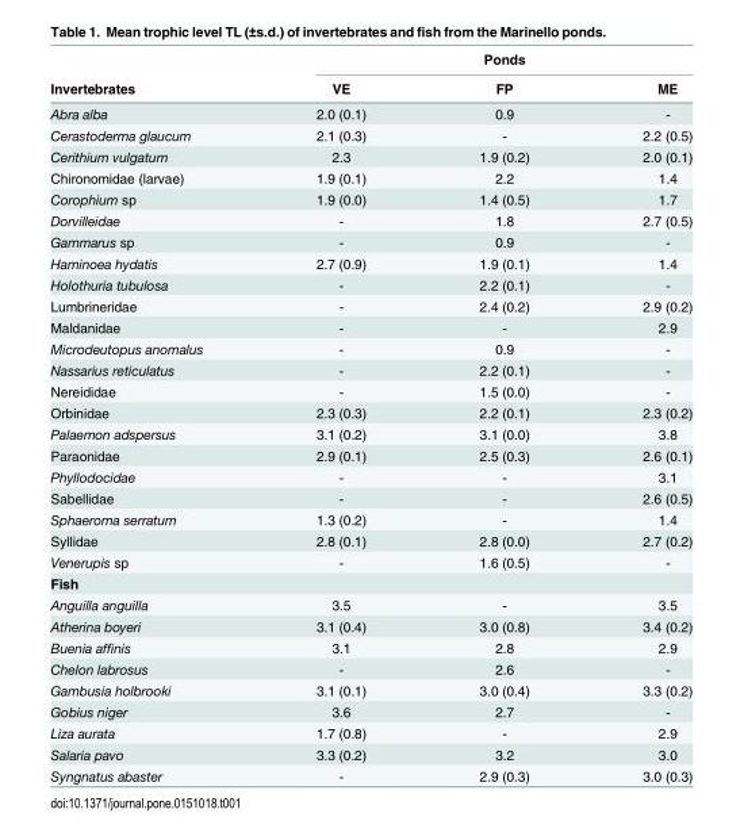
<table><thead><tr><td rowspan="2">Invertebrates</td><td colspan="3">Ponds</td></tr><tr><td>VE</td><td>FP</td><td>ME</td></tr></thead><tbody><tr><td>Abra alba</td><td>2.0 (0.1)</td><td>0.9</td><td>-</td></tr><tr><td>Cerastoderma glaucum</td><td>2.1 (0.3)</td><td>-</td><td>2.2 (0.5)</td></tr><tr><td>Cerithium vulgatum</td><td>2.3</td><td>1.9 (0.2)</td><td>2.0 (0.1)</td></tr><tr><td>Chironomidae (larvae)</td><td>1.9 (0.1)</td><td>2.2</td><td>1.4</td></tr><tr><td>Corophium sp</td><td>1.9 (0.0)</td><td>1.4 (0.5)</td><td>1.7</td></tr><tr><td>Dorvilleidae</td><td>-</td><td>1.8</td><td>2.7 (0.5)</td></tr><tr><td>Gammarus sp</td><td>-</td><td>0.9</td><td>-</td></tr><tr><td>Haminoea hydatis</td><td>2.7 (0.9)</td><td>1.9 (0.1)</td><td>1.4</td></tr><tr><td>Holothuria tubulosa</td><td>-</td><td>2.2 (0.1)</td><td>-</td></tr><tr><td>Lumbrineridae</td><td>-</td><td>2.4 (0.2)</td><td>2.9 (0.2)</td></tr><tr><td>Maldanidae</td><td>-</td><td>-</td><td>2.9</td></tr><tr><td>Microdeutopus anomalus</td><td>-</td><td>0.9</td><td>-</td></tr><tr><td>Nassarius reticulatus</td><td>-</td><td>2.2 (0.1)</td><td>-</td></tr><tr><td>Nereididae</td><td>-</td><td>1.5 (0.0)</td><td>-</td></tr><tr><td>Orbinidae</td><td>2.3 (0.3)</td><td>2.2 (0.1)</td><td>2.3 (0.2)</td></tr><tr><td>Palaemon adspersus</td><td>3.1 (0.2)</td><td>3.1 (0.0)</td><td>3.8</td></tr><tr><td>Paraonidae</td><td>2.9 (0.1)</td><td>2.5 (0.3)</td><td>2.6 (0.1)</td></tr><tr><td>Phyllodocidae</td><td>-</td><td>-</td><td>3.1</td></tr><tr><td>Sabellidae</td><td>-</td><td>-</td><td>2.6 (0.5)</td></tr><tr><td>Sphaeroma serratum</td><td>1.3 (0.2)</td><td>-</td><td>1.4</td></tr><tr><td>Syllidae</td><td>2.8 (0.1)</td><td>2.8 (0.0)</td><td>2.7 (0.2)</td></tr><tr><td>Venerupis sp</td><td>-</td><td>1.6 (0.5)</td><td>-</td></tr><tr><td colspan="4">Fish</td></tr><tr><td>Anguilla anguilla</td><td>3.5</td><td>-</td><td>3.5</td></tr><tr><td>Atherina boyeri</td><td>3.1 (0.4)</td><td>3.0 (0.8)</td><td>3.4 (0.2)</td></tr><tr><td>Buenia affinis</td><td>3.1</td><td>2.8</td><td>2.9</td></tr><tr><td>Chelon labrosus</td><td>-</td><td>2.6</td><td>-</td></tr><tr><td>Gambusia holbrooki</td><td>3.1 (0.1)</td><td>3.0 (0.4)</td><td>3.3 (0.2)</td></tr><tr><td>Gobius niger</td><td>3.6</td><td>2.7</td><td>-</td></tr><tr><td>Liza aurata</td><td>1.7 (0.8)</td><td>-</td><td>2.9</td></tr><tr><td>Salaria pavo</td><td>3.3 (0.2)</td><td>3.2</td><td>3.0</td></tr><tr><td>Syngnatus abaster</td><td>-</td><td>2.9 (0.3)</td><td>3.0 (0.3)</td></tr></tbody></table>